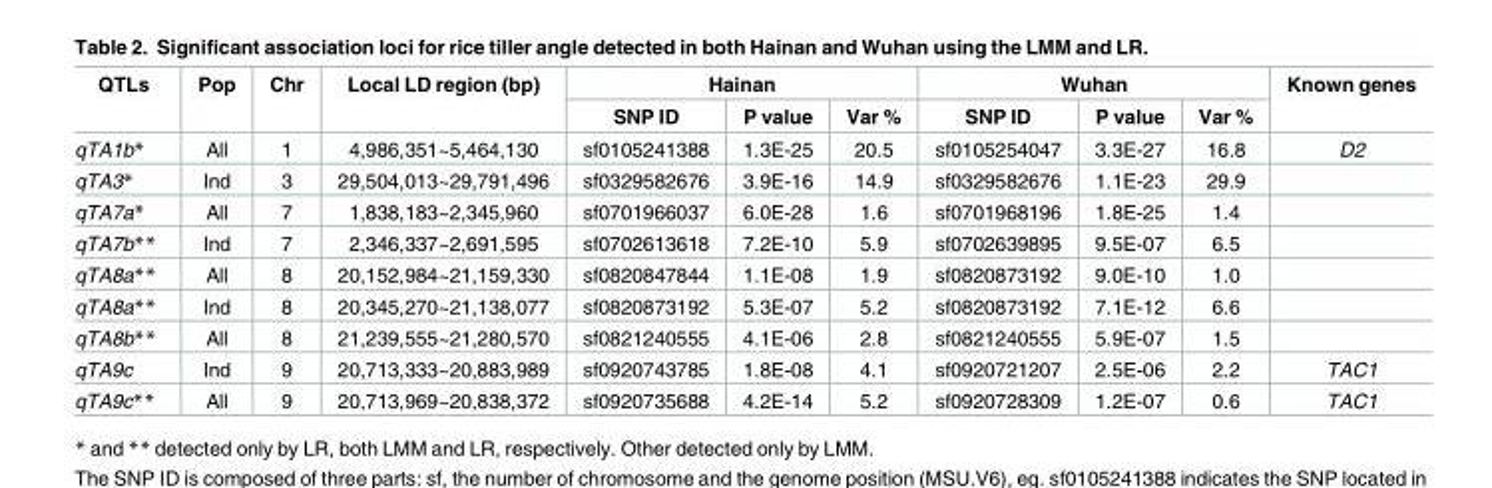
<table><thead><tr><td rowspan="2">QTLs</td><td rowspan="2">Pop</td><td rowspan="2">Chr</td><td rowspan="2">Local LD region (bp)</td><td colspan="3">Hainan</td><td colspan="3">Wuhan</td><td rowspan="2">Known genes</td></tr><tr><td>SNP ID</td><td>P value</td><td>Var %</td><td>SNP ID</td><td>P value</td><td>Var %</td></tr></thead><tbody><tr><td>qTA1b*</td><td>All</td><td>1</td><td>4,986,351~5,464,130</td><td>sf0105241388</td><td>1.3E-25</td><td>20.5</td><td>sf0105254047</td><td>3.3E-27</td><td>16.8</td><td>D2</td></tr><tr><td>qTA3*</td><td>Ind</td><td>3</td><td>29,504,013~29,791,496</td><td>sf0329582676</td><td>3.9E-16</td><td>14.9</td><td>sf0329582676</td><td>1.1E-23</td><td>29.9</td><td></td></tr><tr><td>qTA7a*</td><td>All</td><td>7</td><td>1,838,183~2,345,960</td><td>sf0701966037</td><td>6.0E-28</td><td>1.6</td><td>sf0701968196</td><td>1.8E-25</td><td>1.4</td><td></td></tr><tr><td>qTA7b**</td><td>Ind</td><td>7</td><td>2,346,337~2,691,595</td><td>sf0702613618</td><td>7.2E-10</td><td>5.9</td><td>sf0702639895</td><td>9.5E-07</td><td>6.5</td><td></td></tr><tr><td>qTA8a**</td><td>All</td><td>8</td><td>20,152,984~21,159,330</td><td>sf0820847844</td><td>1.1E-08</td><td>1.9</td><td>sf0820873192</td><td>9.0E-10</td><td>1.0</td><td></td></tr><tr><td>qTA8a**</td><td>Ind</td><td>8</td><td>20,345,270~21,138,077</td><td>sf0820873192</td><td>5.3E-07</td><td>5.2</td><td>sf0820873192</td><td>7.1E-12</td><td>6.6</td><td></td></tr><tr><td>qTA8b**</td><td>All</td><td>8</td><td>21,239,555~21,280,570</td><td>sf0821240555</td><td>4.1E-06</td><td>2.8</td><td>sf0821240555</td><td>5.9E-07</td><td>1.5</td><td></td></tr><tr><td>qTA9c</td><td>Ind</td><td>9</td><td>20,713,333~20,883,989</td><td>sf0920743785</td><td>1.8E-08</td><td>4.1</td><td>sf0920721207</td><td>2.5E-06</td><td>2.2</td><td>TAC1</td></tr><tr><td>qTA9c**</td><td>All</td><td>9</td><td>20,713,969~20,838,372</td><td>sf0920735688</td><td>4.2E-14</td><td>5.2</td><td>sf0920728309</td><td>1.2E-07</td><td>0.6</td><td>TAC1</td></tr></tbody></table>